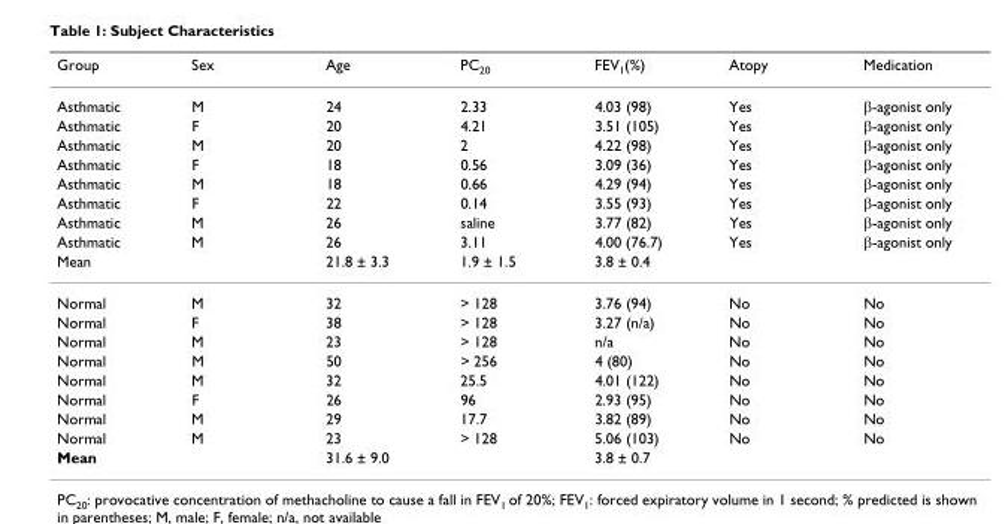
<table><thead><tr><td>Group</td><td>Sex</td><td>Age</td><td>PC<sub>20</sub></td><td>FEV<sub>1</sub>(%)</td><td>Atopy</td><td>Medication</td></tr></thead><tbody><tr><td>Asthmatic</td><td>M</td><td>24</td><td>2.33</td><td>4.03 (98)</td><td>Yes</td><td>β-agonist only</td></tr><tr><td>Asthmatic</td><td>F</td><td>20</td><td>4.21</td><td>3.51 (105)</td><td>Yes</td><td>β-agonist only</td></tr><tr><td>Asthmatic</td><td>M</td><td>20</td><td>2</td><td>4.22 (98)</td><td>Yes</td><td>β-agonist only</td></tr><tr><td>Asthmatic</td><td>F</td><td>18</td><td>0.56</td><td>3.09 (36)</td><td>Yes</td><td>β-agonist only</td></tr><tr><td>Asthmatic</td><td>M</td><td>18</td><td>0.66</td><td>4.29 (94)</td><td>Yes</td><td>β-agonist only</td></tr><tr><td>Asthmatic</td><td>F</td><td>22</td><td>0.14</td><td>3.55 (93)</td><td>Yes</td><td>β-agonist only</td></tr><tr><td>Asthmatic</td><td>M</td><td>26</td><td>saline</td><td>3.77 (82)</td><td>Yes</td><td>β-agonist only</td></tr><tr><td>Asthmatic</td><td>M</td><td>26</td><td>3.11</td><td>4.00 (76.7)</td><td>Yes</td><td>β-agonist only</td></tr><tr><td>Mean</td><td></td><td>21.8 ± 3.3</td><td>1.9 ± 1.5</td><td>3.8 ± 0.4</td><td></td><td></td></tr><tr><td>Normal</td><td>M</td><td>32</td><td>&gt; 128</td><td>3.76 (94)</td><td>No</td><td>No</td></tr><tr><td>Normal</td><td>F</td><td>38</td><td>&gt; 128</td><td>3.27 (n/a)</td><td>No</td><td>No</td></tr><tr><td>Normal</td><td>M</td><td>23</td><td>&gt; 128</td><td>n/a</td><td>No</td><td>No</td></tr><tr><td>Normal</td><td>M</td><td>50</td><td>&gt; 256</td><td>4 (80)</td><td>No</td><td>No</td></tr><tr><td>Normal</td><td>M</td><td>32</td><td>25.5</td><td>4.01 (122)</td><td>No</td><td>No</td></tr><tr><td>Normal</td><td>F</td><td>26</td><td>96</td><td>2.93 (95)</td><td>No</td><td>No</td></tr><tr><td>Normal</td><td>M</td><td>29</td><td>17.7</td><td>3.82 (89)</td><td>No</td><td>No</td></tr><tr><td>Normal</td><td>M</td><td>23</td><td>&gt; 128</td><td>5.06 (103)</td><td>No</td><td>No</td></tr><tr><td>Mean</td><td></td><td>31.6 ± 9.0</td><td></td><td>3.8 ± 0.7</td><td></td><td></td></tr></tbody></table>